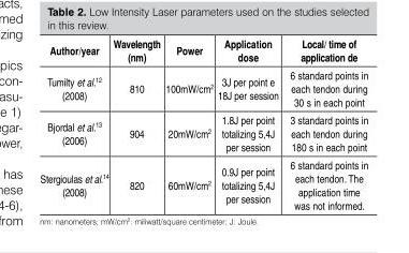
<table><thead><tr><td>Author/year</td><td>Wavelength (nm)</td><td>Power</td><td>Application dose</td><td>Local/ time of application de</td></tr></thead><tbody><tr><td>Tumilty et al.12 (2008)</td><td>810</td><td>100mW/cm2</td><td>3J per point e 18J per session</td><td>6 standard points in each tendon during 30 s in each point</td></tr><tr><td>Bjordal et al.13 (2006)</td><td>904</td><td>20mW/cm2</td><td>1.8J per point totalizing 5,4J per session</td><td>3 standard points in each tendon during 180 s in each point</td></tr><tr><td>Stergioulas et al.14 (2008)</td><td>820</td><td>60mW/cm2</td><td>0.9J per point totalizing 5,4J per session</td><td>6 standard points in each tendon. The application time was not informed.</td></tr></tbody></table>